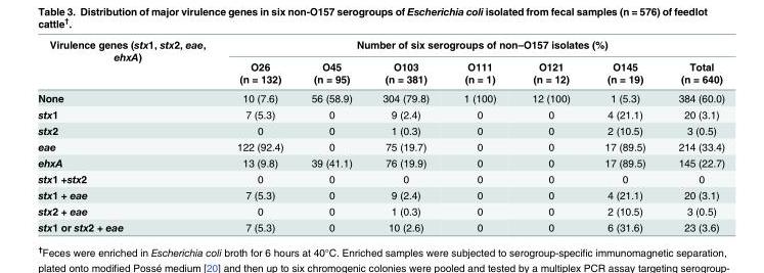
<table><thead><tr><td rowspan="2">Virulence genes (stx1, stx2, eae, ehxA)</td><td colspan="7">Number of six serogroups of non–O157 isolates (%)</td></tr><tr><td>O26 (n = 132)</td><td>O45 (n = 95)</td><td>O103 (n = 381)</td><td>O111 (n = 1)</td><td>O121 (n = 12)</td><td>O145 (n = 19)</td><td>Total (n = 640)</td></tr></thead><tbody><tr><td>None</td><td>10 (7.6)</td><td>56 (58.9)</td><td>304 (79.8)</td><td>1 (100)</td><td>12 (100)</td><td>1 (5.3)</td><td>384 (60.0)</td></tr><tr><td>stx1</td><td>7 (5.3)</td><td>0</td><td>9 (2.4)</td><td>0</td><td>0</td><td>4 (21.1)</td><td>20 (3.1)</td></tr><tr><td>stx2</td><td>0</td><td>0</td><td>1 (0.3)</td><td>0</td><td>0</td><td>2 (10.5)</td><td>3 (0.5)</td></tr><tr><td>eae</td><td>122 (92.4)</td><td>0</td><td>75 (19.7)</td><td>0</td><td>0</td><td>17 (89.5)</td><td>214 (33.4)</td></tr><tr><td>ehxA</td><td>13 (9.8)</td><td>39 (41.1)</td><td>76 (19.9)</td><td>0</td><td>0</td><td>17 (89.5)</td><td>145 (22.7)</td></tr><tr><td>stx1 +stx2</td><td>0</td><td>0</td><td>0</td><td>0</td><td>0</td><td>0</td><td>0</td></tr><tr><td>stx1 + eae</td><td>7 (5.3)</td><td>0</td><td>9 (2.4)</td><td>0</td><td>0</td><td>4 (21.1)</td><td>20 (3.1)</td></tr><tr><td>stx2 + eae</td><td>0</td><td>0</td><td>1 (0.3)</td><td>0</td><td>0</td><td>2 (10.5)</td><td>3 (0.5)</td></tr><tr><td>stx1 or stx2 + eae</td><td>7 (5.3)</td><td>0</td><td>10 (2.6)</td><td>0</td><td>0</td><td>6 (31.6)</td><td>23 (3.6)</td></tr></tbody></table>